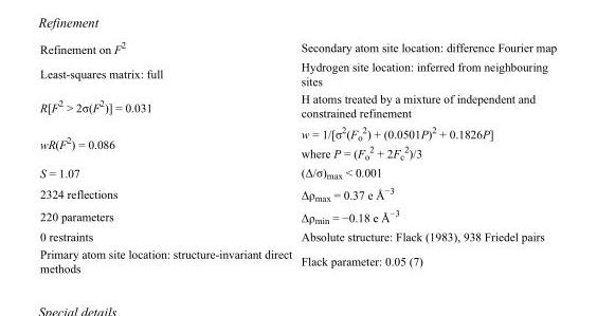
<table><tbody><tr><td>Refinement on F<sup>2</sup></td><td>Secondary atom site location: difference Fourier map</td></tr><tr><td>Least-squares matrix: full</td><td>Hydrogen site location: inferred from neighbouring sites</td></tr><tr><td>R[F<sup>2</sup> &gt; 2σ(F<sup>2</sup>)] = 0.031</td><td>H atoms treated by a mixture of independent and constrained refinement</td></tr><tr><td>wR(F<sup>2</sup>) = 0.086</td><td>w = 1/[σ<sup>2</sup>(F<sub>o</sub> <sup>2</sup>) + (0.0501P)<sup>2</sup> + 0.1826P] where P = (F<sub>o</sub> <sup>2</sup> + 2F<sub>c</sub> <sup>2</sup>)/3</td></tr><tr><td>S = 1.07</td><td>(Δ/σ)<sub>max</sub> &lt; 0.001</td></tr><tr><td>2324 reflections</td><td>Δρ<sub>max</sub> = 0.37 e Å<sup>−3</sup></td></tr><tr><td>220 parameters</td><td>Δρ<sub>min</sub> = −0.18 e Å<sup>−3</sup></td></tr><tr><td>0 restraints</td><td>Absolute structure: Flack (1983), 938 Friedel pairs</td></tr><tr><td>Primary atom site location: structure-invariant direct methods</td><td>Flack parameter: 0.05 (7)</td></tr></tbody></table>